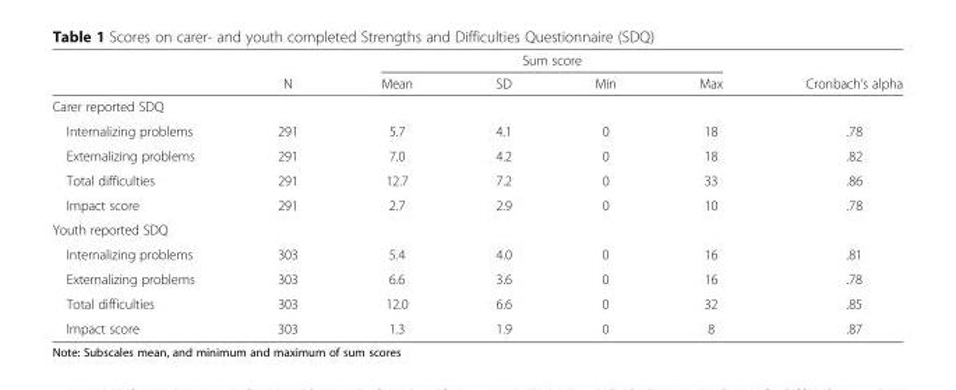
<table><thead><tr><td rowspan="2"></td><td rowspan="2">N</td><td colspan="4">Sum score</td><td rowspan="2">Cronbach’s alpha</td></tr><tr><td>Mean</td><td>SD</td><td>Min</td><td>Max</td></tr></thead><tbody><tr><td colspan="7">Carer reported SDQ</td></tr><tr><td>Internalizing problems</td><td>291</td><td>5.7</td><td>4.1</td><td>0</td><td>18</td><td>.78</td></tr><tr><td>Externalizing problems</td><td>291</td><td>7.0</td><td>4.2</td><td>0</td><td>18</td><td>.82</td></tr><tr><td>Total difficulties</td><td>291</td><td>12.7</td><td>7.2</td><td>0</td><td>33</td><td>.86</td></tr><tr><td>Impact score</td><td>291</td><td>2.7</td><td>2.9</td><td>0</td><td>10</td><td>.78</td></tr><tr><td colspan="7">Youth reported SDQ</td></tr><tr><td>Internalizing problems</td><td>303</td><td>5.4</td><td>4.0</td><td>0</td><td>16</td><td>.81</td></tr><tr><td>Externalizing problems</td><td>303</td><td>6.6</td><td>3.6</td><td>0</td><td>16</td><td>.78</td></tr><tr><td>Total difficulties</td><td>303</td><td>12.0</td><td>6.6</td><td>0</td><td>32</td><td>.85</td></tr><tr><td>Impact score</td><td>303</td><td>1.3</td><td>1.9</td><td>0</td><td>8</td><td>.87</td></tr></tbody></table>